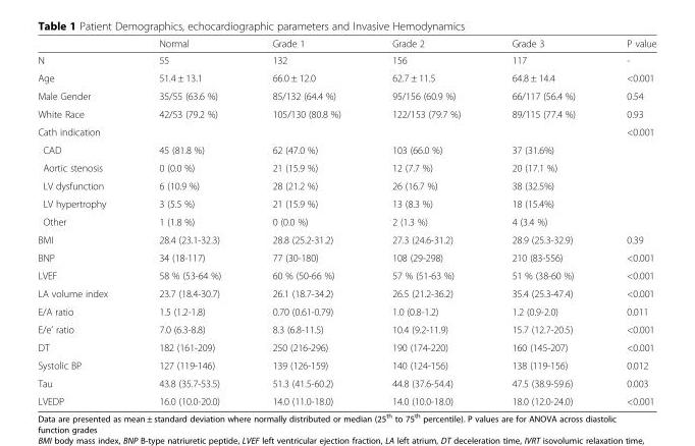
<table><thead><tr><td></td><td>Normal</td><td>Grade 1</td><td>Grade 2</td><td>Grade 3</td><td>P value</td></tr></thead><tbody><tr><td>N</td><td>55</td><td>132</td><td>156</td><td>117</td><td>-</td></tr><tr><td>Age</td><td>51.4 ± 13.1</td><td>66.0 ± 12.0</td><td>62.7 ± 11.5</td><td>64.8 ± 14.4</td><td>&lt;0.001</td></tr><tr><td>Male Gender</td><td>35/55 (63.6 %)</td><td>85/132 (64.4 %)</td><td>95/156 (60.9 %)</td><td>66/117 (56.4 %)</td><td>0.54</td></tr><tr><td>White Race</td><td>42/53 (79.2 %)</td><td>105/130 (80.8 %)</td><td>122/153 (79.7 %)</td><td>89/115 (77.4 %)</td><td>0.93</td></tr><tr><td>Cath indication</td><td></td><td></td><td></td><td></td><td>&lt;0.001</td></tr><tr><td>CAD</td><td>45 (81.8 %)</td><td>62 (47.0 %)</td><td>103 (66.0 %)</td><td>37 (31.6%)</td><td></td></tr><tr><td>Aortic stenosis</td><td>0 (0.0 %)</td><td>21 (15.9 %)</td><td>12 (7.7 %)</td><td>20 (17.1 %)</td><td></td></tr><tr><td>LV dysfunction</td><td>6 (10.9 %)</td><td>28 (21.2 %)</td><td>26 (16.7 %)</td><td>38 (32.5%)</td><td></td></tr><tr><td>LV hypertrophy</td><td>3 (5.5 %)</td><td>21 (15.9 %)</td><td>13 (8.3 %)</td><td>18 (15.4%)</td><td></td></tr><tr><td>Other</td><td>1 (1.8 %)</td><td>0 (0.0 %)</td><td>2 (1.3 %)</td><td>4 (3.4 %)</td><td></td></tr><tr><td>BMI</td><td>28.4 (23.1-32.3)</td><td>28.8 (25.2-31.2)</td><td>27.3 (24.6-31.2)</td><td>28.9 (25.3-32.9)</td><td>0.39</td></tr><tr><td>BNP</td><td>34 (18-117)</td><td>77 (30-180)</td><td>108 (29-298)</td><td>210 (83-556)</td><td>&lt;0.001</td></tr><tr><td>LVEF</td><td>58 % (53-64 %)</td><td>60 % (50-66 %)</td><td>57 % (51-63 %)</td><td>51 % (38-60 %)</td><td>&lt;0.001</td></tr><tr><td>LA volume index</td><td>23.7 (18.4-30.7)</td><td>26.1 (18.7-34.2)</td><td>26.5 (21.2-36.2)</td><td>35.4 (25.3-47.4)</td><td>&lt;0.001</td></tr><tr><td>E/A ratio</td><td>1.5 (1.2-1.8)</td><td>0.70 (0.61-0.79)</td><td>1.0 (0.8-1.2)</td><td>1.2 (0.9-2.0)</td><td>0.011</td></tr><tr><td>E/e’ ratio</td><td>7.0 (6.3-8.8)</td><td>8.3 (6.8-11.5)</td><td>10.4 (9.2-11.9)</td><td>15.7 (12.7-20.5)</td><td>&lt;0.001</td></tr><tr><td>DT</td><td>182 (161-209)</td><td>250 (216-296)</td><td>190 (174-220)</td><td>160 (145-207)</td><td>&lt;0.001</td></tr><tr><td>Systolic BP</td><td>127 (119-146)</td><td>139 (126-159)</td><td>140 (124-156)</td><td>138 (119-156)</td><td>0.012</td></tr><tr><td>Tau</td><td>43.8 (35.7-53.5)</td><td>51.3 (41.5-60.2)</td><td>44.8 (37.6-54.4)</td><td>47.5 (38.9-59.6)</td><td>0.003</td></tr><tr><td>LVEDP</td><td>16.0 (10.0-20.0)</td><td>14.0 (11.0-18.0)</td><td>14.0 (10.0-18.0)</td><td>18.0 (12.0-24.0)</td><td>&lt;0.001</td></tr></tbody></table>